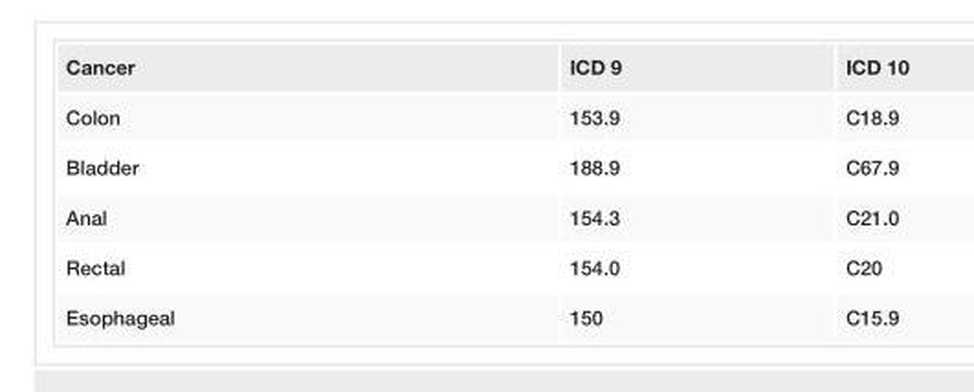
<table><tbody><tr><td>Cancer</td><td>ICD 9</td><td>ICD 10</td></tr><tr><td>Colon</td><td>153.9</td><td>C18.9</td></tr><tr><td>Bladder</td><td>188.9</td><td>C67.9</td></tr><tr><td>Anal</td><td>154.3</td><td>C21.0</td></tr><tr><td>Rectal</td><td>154.0</td><td>C20</td></tr><tr><td>Esophageal</td><td>150</td><td>C15.9</td></tr></tbody></table>